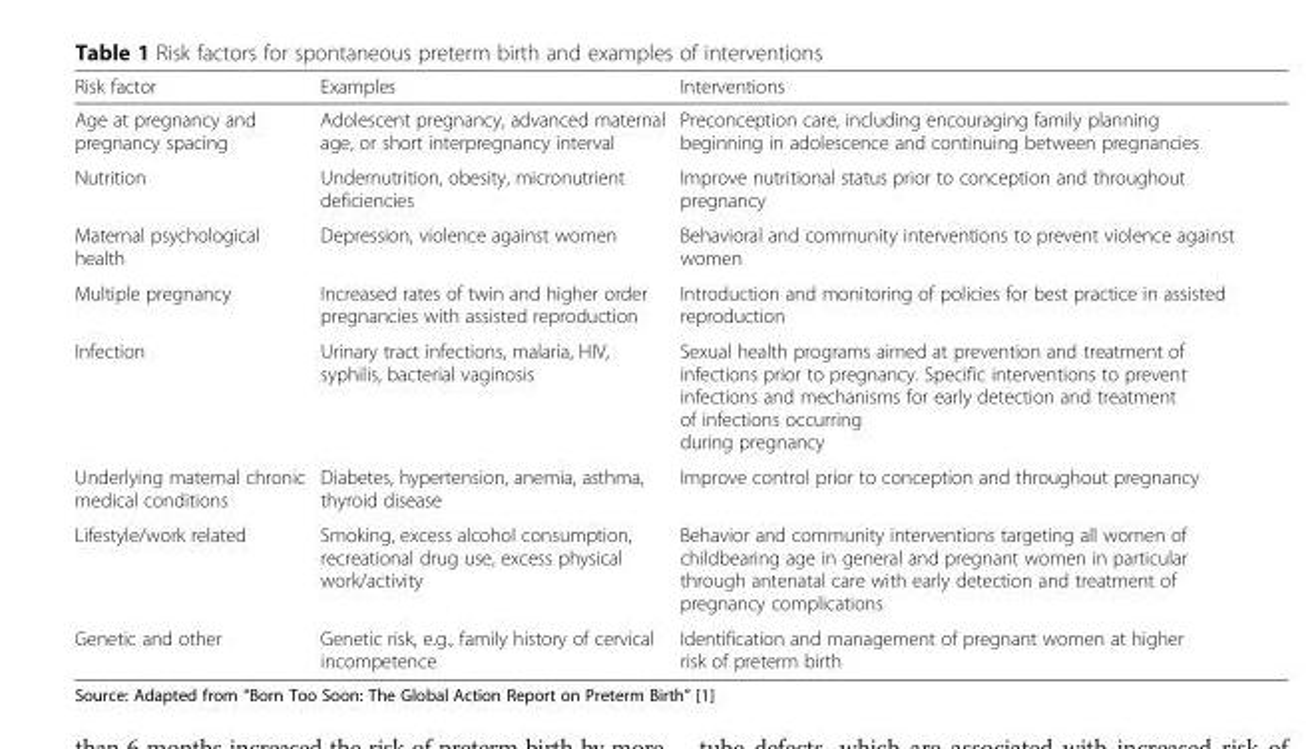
<table><thead><tr><td>Risk factor</td><td>Examples</td><td>Interventions</td></tr></thead><tbody><tr><td>Age at pregnancy and pregnancy spacing</td><td>Adolescent pregnancy, advanced maternal age, or short interpregnancy interval</td><td>Preconception care, including encouraging family planning beginning in adolescence and continuing between pregnancies</td></tr><tr><td>Nutrition</td><td>Undernutrition, obesity, micronutrient deficiencies</td><td>Improve nutritional status prior to conception and throughout pregnancy</td></tr><tr><td>Maternal psychological health</td><td>Depression, violence against women</td><td>Behavioral and community interventions to prevent violence against women</td></tr><tr><td>Multiple pregnancy</td><td>Increased rates of twin and higher order pregnancies with assisted reproduction</td><td>Introduction and monitoring of policies for best practice in assisted reproduction</td></tr><tr><td>Infection</td><td>Urinary tract infections, malaria, HIV, syphilis, bacterial vaginosis</td><td>Sexual health programs aimed at prevention and treatment of infections prior to pregnancy. Specific interventions to prevent infections and mechanisms for early detection and treatment of infections occurring during pregnancy</td></tr><tr><td>Underlying maternal chronic medical conditions</td><td>Diabetes, hypertension, anemia, asthma, thyroid disease</td><td>Improve control prior to conception and throughout pregnancy</td></tr><tr><td>Lifestyle/work related</td><td>Smoking, excess alcohol consumption, recreational drug use, excess physical work/activity</td><td>Behavior and community interventions targeting all women of childbearing age in general and pregnant women in particular through antenatal care with early detection and treatment of pregnancy complications</td></tr><tr><td>Genetic and other</td><td>Genetic risk, e.g., family history of cervical incompetence</td><td>Identification and management of pregnant women at higher risk of preterm birth</td></tr></tbody></table>